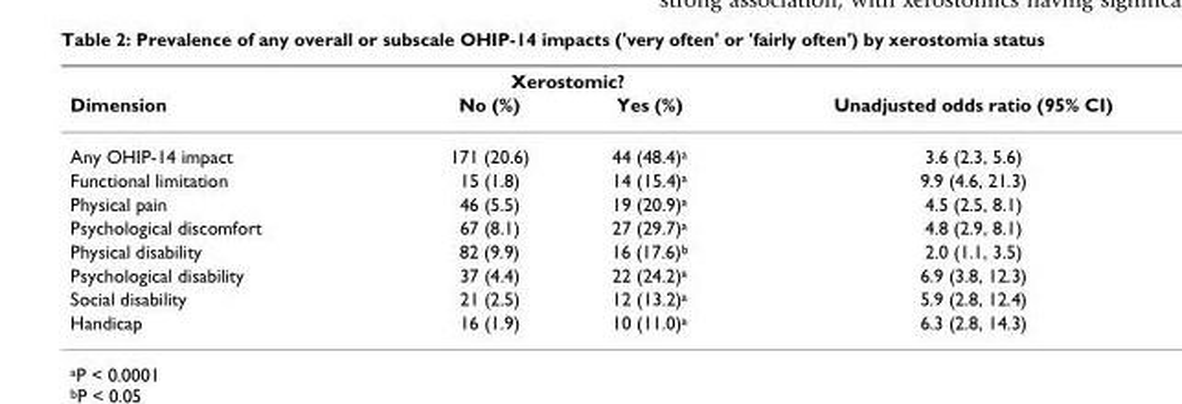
<table><thead><tr><td rowspan="2">Dimension</td><td colspan="2">Xerostomic?</td><td rowspan="2">Unadjusted odds ratio (95% CI)</td></tr><tr><td>No (%)</td><td>Yes (%)</td></tr></thead><tbody><tr><td>Any OHIP-14 impact</td><td>171 (20.6)</td><td>44 (48.4)<sup>a</sup></td><td>3.6 (2.3, 5.6)</td></tr><tr><td>Functional limitation</td><td>15 (1.8)</td><td>14 (15.4)<sup>a</sup></td><td>9.9 (4.6, 21.3)</td></tr><tr><td>Physical pain</td><td>46 (5.5)</td><td>19 (20.9)<sup>a</sup></td><td>4.5 (2.5, 8.1)</td></tr><tr><td>Psychological discomfort</td><td>67 (8.1)</td><td>27 (29.7)<sup>a</sup></td><td>4.8 (2.9, 8.1)</td></tr><tr><td>Physical disability</td><td>82 (9.9)</td><td>16 (17.6)<sup>b</sup></td><td>2.0 (1.1, 3.5)</td></tr><tr><td>Psychological disability</td><td>37 (4.4)</td><td>22 (24.2)<sup>a</sup></td><td>6.9 (3.8, 12.3)</td></tr><tr><td>Social disability</td><td>21 (2.5)</td><td>12 (13.2)<sup>a</sup></td><td>5.9 (2.8, 12.4)</td></tr><tr><td>Handicap</td><td>16 (1.9)</td><td>10 (11.0)<sup>a</sup></td><td>6.3 (2.8, 14.3)</td></tr></tbody></table>